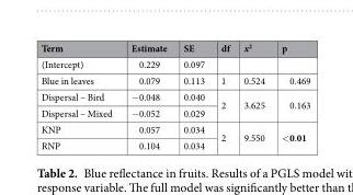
<table><thead><tr><td>Term</td><td>Estimate</td><td>SE</td><td>df</td><td>x<sup>2</sup></td><td>p</td></tr></thead><tbody><tr><td>(Intercept)</td><td>0.229</td><td>0.097</td><td></td><td></td><td></td></tr><tr><td>Blue in leaves</td><td>0.079</td><td>0.113</td><td>1</td><td>0.524</td><td>0.469</td></tr><tr><td>Dispersal – Bird</td><td>−0.048</td><td>0.040</td><td rowspan="2">2</td><td rowspan="2">3.625</td><td rowspan="2">0.163</td></tr><tr><td>Dispersal – Mixed</td><td>−0.052</td><td>0.029</td></tr><tr><td>KNP</td><td>0.057</td><td>0.034</td><td rowspan="2">2</td><td rowspan="2">9.550</td><td rowspan="2">&lt;0.01</td></tr><tr><td>RNP</td><td>0.104</td><td>0.034</td></tr></tbody></table>